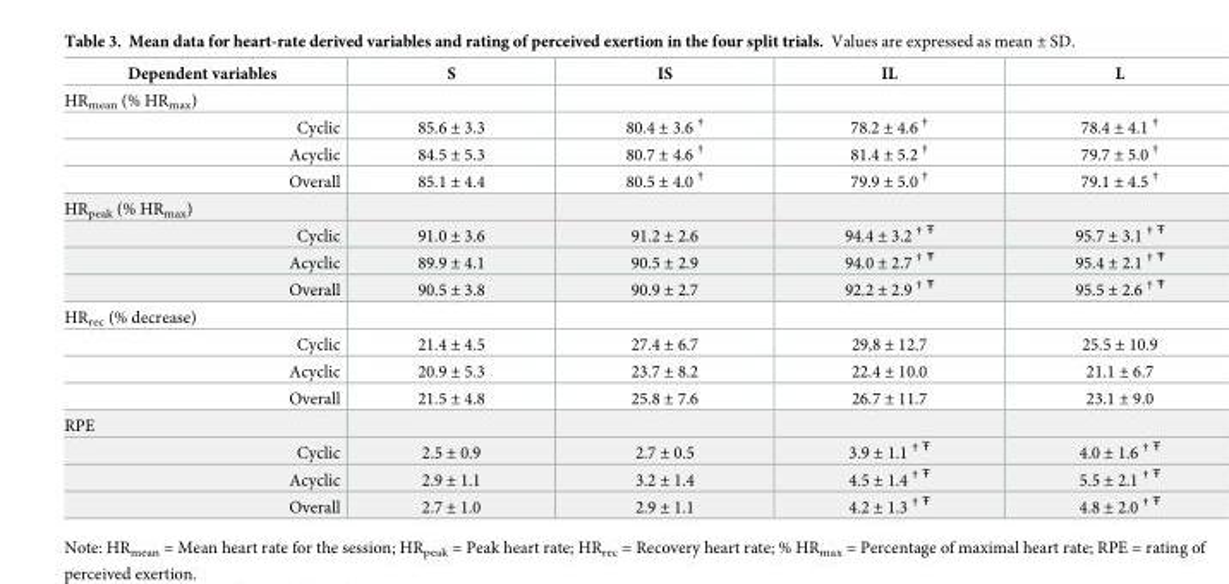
<table><thead><tr><td>Dependent variables</td><td>S</td><td>IS</td><td>IL</td><td>L</td></tr></thead><tbody><tr><td colspan="5">HR<sub>mean</sub> (% HR<sub>max</sub>)</td></tr><tr><td>Cyclic</td><td>85.6 ± 3.3</td><td>80.4 ± 3.6 <sup>†</sup></td><td>78.2 ± 4.6 <sup>†</sup></td><td>78.4 ± 4.1 <sup>†</sup></td></tr><tr><td>Acyclic</td><td>84.5 ± 5.3</td><td>80.7 ± 4.6 <sup>†</sup></td><td>81.4 ± 5.2 <sup>†</sup></td><td>79.7 ± 5.0 <sup>†</sup></td></tr><tr><td>Overall</td><td>85.1 ± 4.4</td><td>80.5 ± 4.0 <sup>†</sup></td><td>79.9 ± 5.0 <sup>†</sup></td><td>79.1 ± 4.5 <sup>†</sup></td></tr><tr><td colspan="5">HR<sub>peak</sub> (% HR<sub>max</sub>)</td></tr><tr><td>Cyclic</td><td>91.0 ± 3.6</td><td>91.2 ± 2.6</td><td>94.4 ± 3.2 <sup>† Ŧ</sup></td><td>95.7 ± 3.1 <sup>† Ŧ</sup></td></tr><tr><td>Acyclic</td><td>89.9 ± 4.1</td><td>90.5 ± 2.9</td><td>94.0 ± 2.7 <sup>† Ŧ</sup></td><td>95.4 ± 2.1 <sup>† Ŧ</sup></td></tr><tr><td>Overall</td><td>90.5 ± 3.8</td><td>90.9 ± 2.7</td><td>92.2 ± 2.9 <sup>† Ŧ</sup></td><td>95.5 ± 2.6 <sup>† Ŧ</sup></td></tr><tr><td colspan="5">HR<sub>rec</sub> (% decrease)</td></tr><tr><td>Cyclic</td><td>21.4 ± 4.5</td><td>27.4 ± 6.7</td><td>29,8 ± 12.7</td><td>25.5 ± 10.9</td></tr><tr><td>Acyclic</td><td>20.9 ± 5.3</td><td>23.7 ± 8.2</td><td>22.4 ± 10.0</td><td>21.1 ± 6.7</td></tr><tr><td>Overall</td><td>21.5 ± 4.8</td><td>25.8 ± 7.6</td><td>26.7 ± 11.7</td><td>23.1 ± 9.0</td></tr><tr><td colspan="5">RPE</td></tr><tr><td>Cyclic</td><td>2.5 ± 0.9</td><td>2.7 ± 0.5</td><td>3.9 ± 1.1 <sup>† Ŧ</sup></td><td>4.0 ± 1.6 <sup>† Ŧ</sup></td></tr><tr><td>Acyclic</td><td>2.9 ± 1.1</td><td>3.2 ± 1.4</td><td>4.5 ± 1.4 <sup>† Ŧ</sup></td><td>5.5 ± 2.1 <sup>† Ŧ</sup></td></tr><tr><td>Overall</td><td>2.7 ± 1.0</td><td>2.9 ± 1.1</td><td>4.2 ± 1.3 <sup>† Ŧ</sup></td><td>4.8 ± 2.0 <sup>† Ŧ</sup></td></tr></tbody></table>